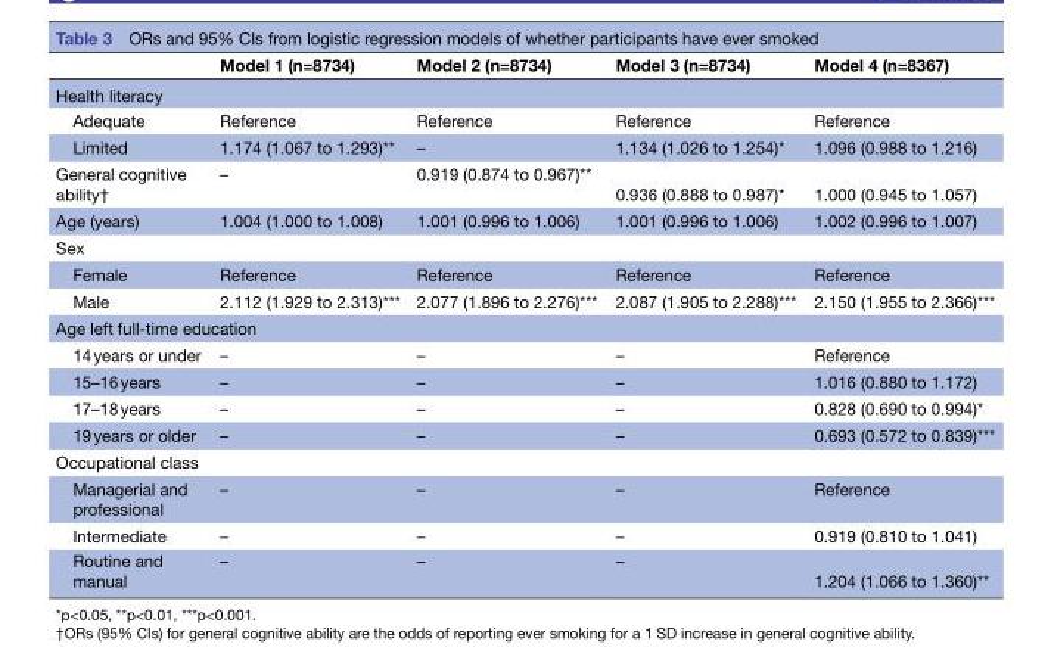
<table><thead><tr><td></td><td>Model 1 (n=8734)</td><td>Model 2 (n=8734)</td><td>Model 3 (n=8734)</td><td>Model 4 (n=8367)</td></tr></thead><tbody><tr><td colspan="5">Health literacy</td></tr><tr><td>Adequate</td><td>Reference</td><td>Reference</td><td>Reference</td><td>Reference</td></tr><tr><td>Limited</td><td>1.174 (1.067 to 1.293)**</td><td>–</td><td>1.134 (1.026 to 1.254)*</td><td>1.096 (0.988 to 1.216)</td></tr><tr><td>General cognitive ability†</td><td>–</td><td>0.919 (0.874 to 0.967)**</td><td>0.936 (0.888 to 0.987)*</td><td>1.000 (0.945 to 1.057)</td></tr><tr><td>Age (years)</td><td>1.004 (1.000 to 1.008)</td><td>1.001 (0.996 to 1.006)</td><td>1.001 (0.996 to 1.006)</td><td>1.002 (0.996 to 1.007)</td></tr><tr><td colspan="5">Sex</td></tr><tr><td>Female</td><td>Reference</td><td>Reference</td><td>Reference</td><td>Reference</td></tr><tr><td>Male</td><td>2.112 (1.929 to 2.313)***</td><td>2.077 (1.896 to 2.276)***</td><td>2.087 (1.905 to 2.288)***</td><td>2.150 (1.955 to 2.366)***</td></tr><tr><td colspan="5">Age left full-time education</td></tr><tr><td>14 years or under</td><td>–</td><td>–</td><td>–</td><td>Reference</td></tr><tr><td>15–16 years</td><td>–</td><td>–</td><td>–</td><td>1.016 (0.880 to 1.172)</td></tr><tr><td>17–18 years</td><td>–</td><td>–</td><td>–</td><td>0.828 (0.690 to 0.994)*</td></tr><tr><td>19 years or older</td><td>–</td><td>–</td><td>–</td><td>0.693 (0.572 to 0.839)***</td></tr><tr><td colspan="5">Occupational class</td></tr><tr><td>Managerial and professional</td><td>–</td><td>–</td><td>–</td><td>Reference</td></tr><tr><td>Intermediate</td><td>–</td><td>–</td><td>–</td><td>0.919 (0.810 to 1.041)</td></tr><tr><td>Routine and manual</td><td>–</td><td>–</td><td>–</td><td>1.204 (1.066 to 1.360)**</td></tr></tbody></table>